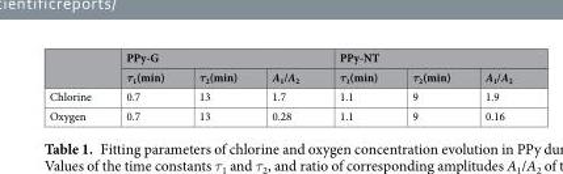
<table><thead><tr><td rowspan="2"></td><td colspan="3">PPy-G</td><td colspan="3">PPy-NT</td></tr><tr><td>τ<sub>1</sub>(min)</td><td>τ<sub>2</sub>(min)</td><td>A<sub>1</sub>/A<sub>2</sub></td><td>τ<sub>1</sub>(min)</td><td>τ<sub>2</sub>(min)</td><td>A<sub>1</sub>/A<sub>2</sub></td></tr></thead><tbody><tr><td>Chlorine</td><td>0.7</td><td>13</td><td>1.7</td><td>1.1</td><td>9</td><td>1.9</td></tr><tr><td>Oxygen</td><td>0.7</td><td>13</td><td>0.28</td><td>1.1</td><td>9</td><td>0.16</td></tr></tbody></table>